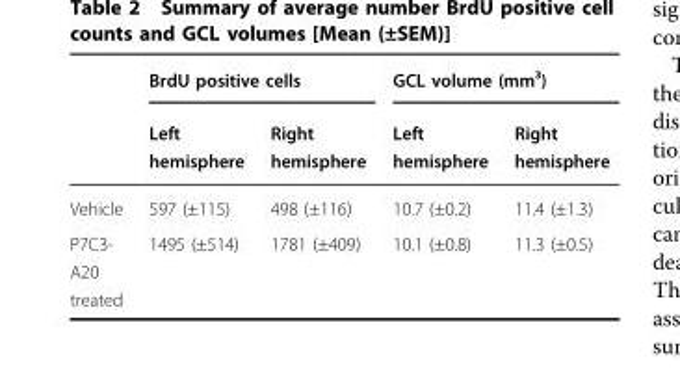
<table><thead><tr><td rowspan="2"></td><td colspan="2">BrdU positive cells</td><td colspan="2">GCL volume (mm³)</td></tr><tr><td>Left hemisphere</td><td>Right hemisphere</td><td>Left hemisphere</td><td>Right hemisphere</td></tr></thead><tbody><tr><td>Vehicle</td><td>597 (±115)</td><td>498 (±116)</td><td>10.7 (±0.2)</td><td>11.4 (±1.3)</td></tr><tr><td>P7C3- A20 treated</td><td>1495 (±514)</td><td>1781 (±409)</td><td>10.1 (±0.8)</td><td>11.3 (±0.5)</td></tr></tbody></table>